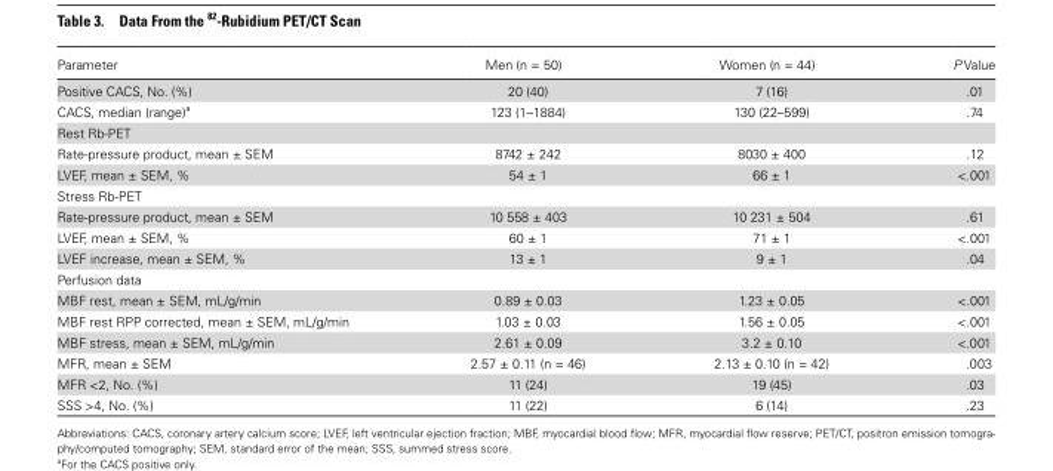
<table><thead><tr><td>Parameter</td><td>Men (n = 50)</td><td>Women (n = 44)</td><td>P Value</td></tr></thead><tbody><tr><td>Positive CACS, No. (%)</td><td>20 (40)</td><td>7 (16)</td><td>.01</td></tr><tr><td>CACS, median (range)<sup>a</sup></td><td>123 (1–1884)</td><td>130 (22–599)</td><td>.74</td></tr><tr><td colspan="4">Rest Rb-PET</td></tr><tr><td>Rate-pressure product, mean ± SEM</td><td>8742 ± 242</td><td>8030 ± 400</td><td>.12</td></tr><tr><td>LVEF, mean ± SEM, %</td><td>54 ± 1</td><td>66 ± 1</td><td>&lt;.001</td></tr><tr><td colspan="4">Stress Rb-PET</td></tr><tr><td>Rate-pressure product, mean ± SEM</td><td>10 558 ± 403</td><td>10 231 ± 504</td><td>.61</td></tr><tr><td>LVEF, mean ± SEM, %</td><td>60 ± 1</td><td>71 ± 1</td><td>&lt;.001</td></tr><tr><td>LVEF increase, mean ± SEM, %</td><td>13 ± 1</td><td>9 ± 1</td><td>.04</td></tr><tr><td colspan="4">Perfusion data</td></tr><tr><td>MBF rest, mean ± SEM, mL/g/min</td><td>0.89 ± 0.03</td><td>1.23 ± 0.05</td><td>&lt;.001</td></tr><tr><td>MBF rest RPP corrected, mean ± SEM, mL/g/min</td><td>1.03 ± 0.03</td><td>1.56 ± 0.05</td><td>&lt;.001</td></tr><tr><td>MBF stress, mean ± SEM, mL/g/min</td><td>2.61 ± 0.09</td><td>3.2 ± 0.10</td><td>&lt;.001</td></tr><tr><td>MFR, mean ± SEM</td><td>2.57 ± 0.11 (n = 46)</td><td>2.13 ± 0.10 (n = 42)</td><td>.003</td></tr><tr><td>MFR &lt;2, No. (%)</td><td>11 (24)</td><td>19 (45)</td><td>.03</td></tr><tr><td>SSS &gt;4, No. (%)</td><td>11 (22)</td><td>6 (14)</td><td>.23</td></tr></tbody></table>